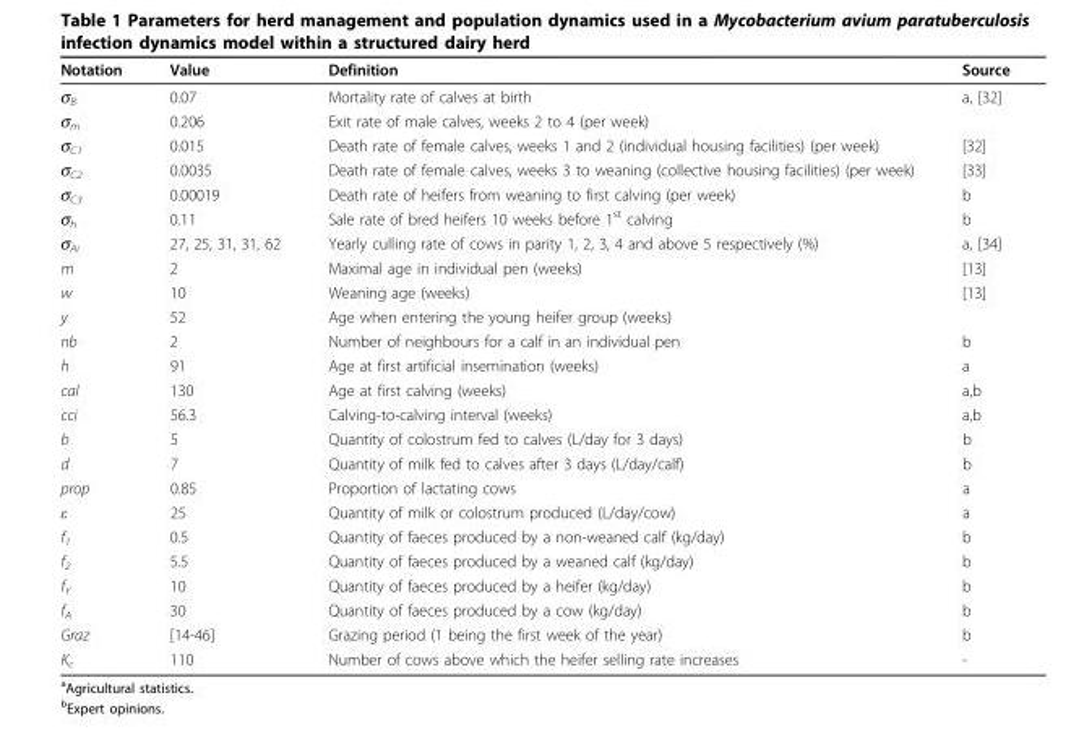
<table><thead><tr><td>Notation</td><td>Value</td><td>Definition</td><td>Source</td></tr></thead><tbody><tr><td>σ<sub>B</sub></td><td>0.07</td><td>Mortality rate of calves at birth</td><td>a, [32]</td></tr><tr><td>σ<sub>m</sub></td><td>0.206</td><td>Exit rate of male calves, weeks 2 to 4 (per week)</td><td></td></tr><tr><td>σ<sub>C1</sub></td><td>0.015</td><td>Death rate of female calves, weeks 1 and 2 (individual housing facilities) (per week)</td><td>[32]</td></tr><tr><td>σ<sub>C2</sub></td><td>0.0035</td><td>Death rate of female calves, weeks 3 to weaning (collective housing facilities) (per week)</td><td>[33]</td></tr><tr><td>σ<sub>C3</sub></td><td>0.00019</td><td>Death rate of heifers from weaning to first calving (per week)</td><td>b</td></tr><tr><td>σ<sub>h</sub></td><td>0.11</td><td>Sale rate of bred heifers 10 weeks before 1<sup>st</sup> calving</td><td>b</td></tr><tr><td>σ<sub>Ai</sub></td><td>27, 25, 31, 31, 62</td><td>Yearly culling rate of cows in parity 1, 2, 3, 4 and above 5 respectively (%)</td><td>a, [34]</td></tr><tr><td>m</td><td>2</td><td>Maximal age in individual pen (weeks)</td><td>[13]</td></tr><tr><td>w</td><td>10</td><td>Weaning age (weeks)</td><td>[13]</td></tr><tr><td>y</td><td>52</td><td>Age when entering the young heifer group (weeks)</td><td></td></tr><tr><td>nb</td><td>2</td><td>Number of neighbours for a calf in an individual pen</td><td>b</td></tr><tr><td>h</td><td>91</td><td>Age at first artificial insemination (weeks)</td><td>a</td></tr><tr><td>cal</td><td>130</td><td>Age at first calving (weeks)</td><td>a,b</td></tr><tr><td>cci</td><td>56.3</td><td>Calving-to-calving interval (weeks)</td><td>a,b</td></tr><tr><td>b</td><td>5</td><td>Quantity of colostrum fed to calves (L/day for 3 days)</td><td>b</td></tr><tr><td>d</td><td>7</td><td>Quantity of milk fed to calves after 3 days (L/day/calf)</td><td>b</td></tr><tr><td>prop</td><td>0.85</td><td>Proportion of lactating cows</td><td>a</td></tr><tr><td>ε</td><td>25</td><td>Quantity of milk or colostrum produced (L/day/cow)</td><td>a</td></tr><tr><td>f<sub>1</sub></td><td>0.5</td><td>Quantity of faeces produced by a non-weaned calf (kg/day)</td><td>b</td></tr><tr><td>f<sub>2</sub></td><td>5.5</td><td>Quantity of faeces produced by a weaned calf (kg/day)</td><td>b</td></tr><tr><td>f<sub>Y</sub></td><td>10</td><td>Quantity of faeces produced by a heifer (kg/day)</td><td>b</td></tr><tr><td>f<sub>A</sub></td><td>30</td><td>Quantity of faeces produced by a cow (kg/day)</td><td>b</td></tr><tr><td>Graz</td><td>[14-46]</td><td>Grazing period (1 being the first week of the year)</td><td>b</td></tr><tr><td>K<sub>c</sub></td><td>110</td><td>Number of cows above which the heifer selling rate increases</td><td>-</td></tr></tbody></table>